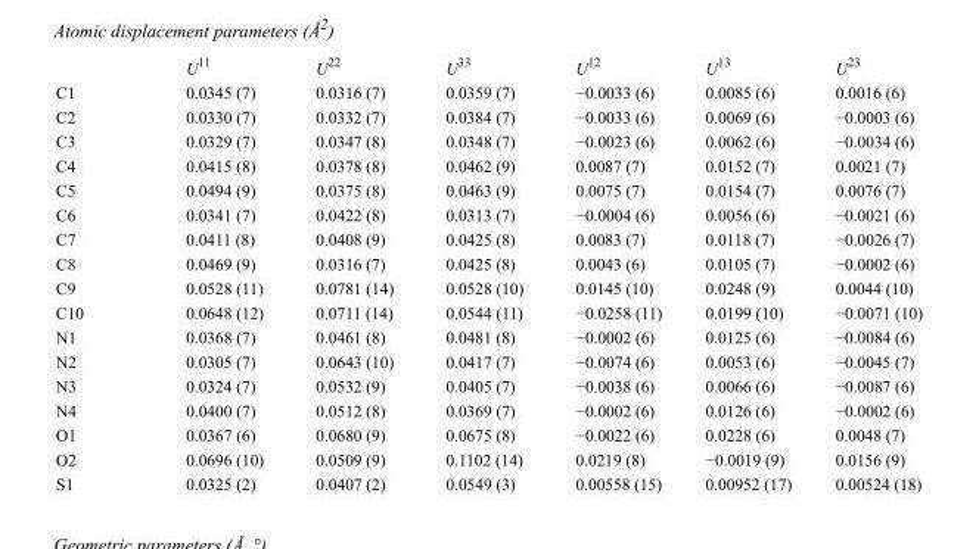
<table><thead><tr><td></td><td>U<sup>11</sup></td><td>U<sup>22</sup></td><td>U<sup>33</sup></td><td>U<sup>12</sup></td><td>U<sup>13</sup></td><td>U<sup>23</sup></td></tr></thead><tbody><tr><td>C1</td><td>0.0345 (7)</td><td>0.0316 (7)</td><td>0.0359 (7)</td><td>−0.0033 (6)</td><td>0.0085 (6)</td><td>0.0016 (6)</td></tr><tr><td>C2</td><td>0.0330 (7)</td><td>0.0332 (7)</td><td>0.0384 (7)</td><td>−0.0033 (6)</td><td>0.0069 (6)</td><td>−0.0003 (6)</td></tr><tr><td>C3</td><td>0.0329 (7)</td><td>0.0347 (8)</td><td>0.0348 (7)</td><td>−0.0023 (6)</td><td>0.0062 (6)</td><td>−0.0034 (6)</td></tr><tr><td>C4</td><td>0.0415 (8)</td><td>0.0378 (8)</td><td>0.0462 (9)</td><td>0.0087 (7)</td><td>0.0152 (7)</td><td>0.0021 (7)</td></tr><tr><td>C5</td><td>0.0494 (9)</td><td>0.0375 (8)</td><td>0.0463 (9)</td><td>0.0075 (7)</td><td>0.0154 (7)</td><td>0.0076 (7)</td></tr><tr><td>C6</td><td>0.0341 (7)</td><td>0.0422 (8)</td><td>0.0313 (7)</td><td>−0.0004 (6)</td><td>0.0056 (6)</td><td>−0.0021 (6)</td></tr><tr><td>C7</td><td>0.0411 (8)</td><td>0.0408 (9)</td><td>0.0425 (8)</td><td>0.0083 (7)</td><td>0.0118 (7)</td><td>−0.0026 (7)</td></tr><tr><td>C8</td><td>0.0469 (9)</td><td>0.0316 (7)</td><td>0.0425 (8)</td><td>0.0043 (6)</td><td>0.0105 (7)</td><td>−0.0002 (6)</td></tr><tr><td>C9</td><td>0.0528 (11)</td><td>0.0781 (14)</td><td>0.0528 (10)</td><td>0.0145 (10)</td><td>0.0248 (9)</td><td>0.0044 (10)</td></tr><tr><td>C10</td><td>0.0648 (12)</td><td>0.0711 (14)</td><td>0.0544 (11)</td><td>−0.0258 (11)</td><td>0.0199 (10)</td><td>−0.0071 (10)</td></tr><tr><td>N1</td><td>0.0368 (7)</td><td>0.0461 (8)</td><td>0.0481 (8)</td><td>−0.0002 (6)</td><td>0.0125 (6)</td><td>−0.0084 (6)</td></tr><tr><td>N2</td><td>0.0305 (7)</td><td>0.0643 (10)</td><td>0.0417 (7)</td><td>−0.0074 (6)</td><td>0.0053 (6)</td><td>−0.0045 (7)</td></tr><tr><td>N3</td><td>0.0324 (7)</td><td>0.0532 (9)</td><td>0.0405 (7)</td><td>−0.0038 (6)</td><td>0.0066 (6)</td><td>−0.0087 (6)</td></tr><tr><td>N4</td><td>0.0400 (7)</td><td>0.0512 (8)</td><td>0.0369 (7)</td><td>−0.0002 (6)</td><td>0.0126 (6)</td><td>−0.0002 (6)</td></tr><tr><td>O1</td><td>0.0367 (6)</td><td>0.0680 (9)</td><td>0.0675 (8)</td><td>−0.0022 (6)</td><td>0.0228 (6)</td><td>0.0048 (7)</td></tr><tr><td>O2</td><td>0.0696 (10)</td><td>0.0509 (9)</td><td>0.1102 (14)</td><td>0.0219 (8)</td><td>−0.0019 (9)</td><td>0.0156 (9)</td></tr><tr><td>S1</td><td>0.0325 (2)</td><td>0.0407 (2)</td><td>0.0549 (3)</td><td>0.00558 (15)</td><td>0.00952 (17)</td><td>0.00524 (18)</td></tr></tbody></table>